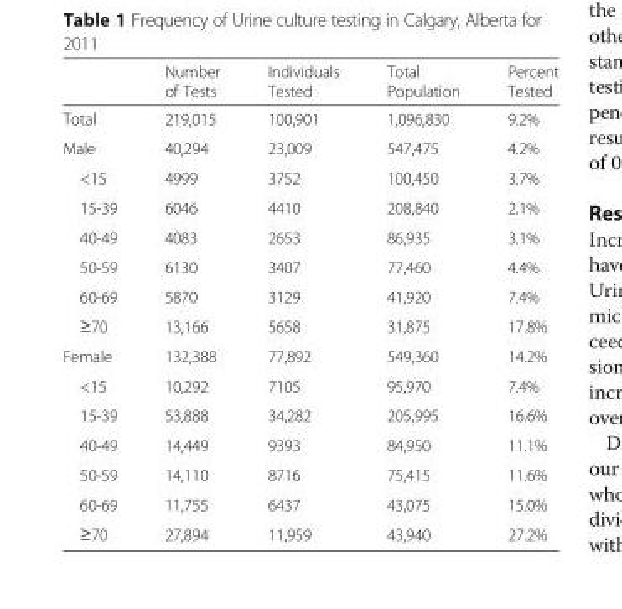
<table><thead><tr><td></td><td>Number of Tests</td><td>Individuals Tested</td><td>Total Population</td><td>Percent Tested</td></tr></thead><tbody><tr><td>Total</td><td>219,015</td><td>100,901</td><td>1,096,830</td><td>9.2%</td></tr><tr><td>Male</td><td>40,294</td><td>23,009</td><td>547,475</td><td>4.2%</td></tr><tr><td>&lt;15</td><td>4999</td><td>3752</td><td>100,450</td><td>3.7%</td></tr><tr><td>15-39</td><td>6046</td><td>4410</td><td>208,840</td><td>2.1%</td></tr><tr><td>40-49</td><td>4083</td><td>2653</td><td>86,935</td><td>3.1%</td></tr><tr><td>50-59</td><td>6130</td><td>3407</td><td>77,460</td><td>4.4%</td></tr><tr><td>60-69</td><td>5870</td><td>3129</td><td>41,920</td><td>7.4%</td></tr><tr><td>≥70</td><td>13,166</td><td>5658</td><td>31,875</td><td>17.8%</td></tr><tr><td>Female</td><td>132,388</td><td>77,892</td><td>549,360</td><td>14.2%</td></tr><tr><td>&lt;15</td><td>10,292</td><td>7105</td><td>95,970</td><td>7.4%</td></tr><tr><td>15-39</td><td>53,888</td><td>34,282</td><td>205,995</td><td>16.6%</td></tr><tr><td>40-49</td><td>14,449</td><td>9393</td><td>84,950</td><td>11.1%</td></tr><tr><td>50-59</td><td>14,110</td><td>8716</td><td>75,415</td><td>11.6%</td></tr><tr><td>60-69</td><td>11,755</td><td>6437</td><td>43,075</td><td>15.0%</td></tr><tr><td>≥70</td><td>27,894</td><td>11,959</td><td>43,940</td><td>27.2%</td></tr></tbody></table>